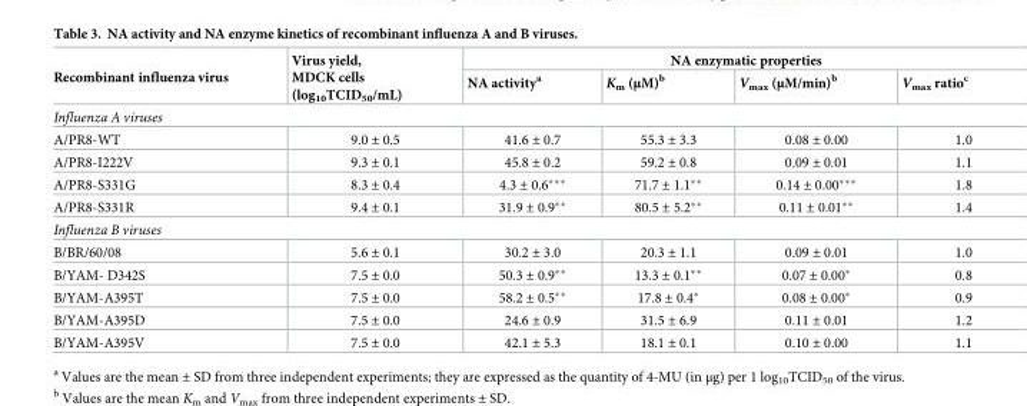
<table><thead><tr><td rowspan="2">Recombinant influenza virus</td><td rowspan="2">Virus yield, MDCK cells (log<sub>10</sub>TCID<sub>50</sub>/mL)</td><td colspan="4">NA enzymatic properties</td></tr><tr><td>NA activity<sup>a</sup></td><td>K<sub>m</sub> (μM)<sup>b</sup></td><td>V<sub>max</sub> (μM/min)<sup>b</sup></td><td>V<sub>max</sub> ratio<sup>c</sup></td></tr></thead><tbody><tr><td colspan="6">Influenza A viruses</td></tr><tr><td>A/PR8-WT</td><td>9.0 ± 0.5</td><td>41.6 ± 0.7</td><td>55.3 ± 3.3</td><td>0.08 ± 0.00</td><td>1.0</td></tr><tr><td>A/PR8-I222V</td><td>9.3 ± 0.1</td><td>45.8 ± 0.2</td><td>59.2 ± 0.8</td><td>0.09 ± 0.01</td><td>1.1</td></tr><tr><td>A/PR8-S331G</td><td>8.3 ± 0.4</td><td>4.3 ± 0.6***</td><td>71.7 ± 1.1**</td><td>0.14 ± 0.00***</td><td>1.8</td></tr><tr><td>A/PR8-S331R</td><td>9.4 ± 0.1</td><td>31.9 ± 0.9**</td><td>80.5 ± 5.2**</td><td>0.11 ± 0.01**</td><td>1.4</td></tr><tr><td colspan="6">Influenza B viruses</td></tr><tr><td>B/BR/60/08</td><td>5.6 ± 0.1</td><td>30.2 ± 3.0</td><td>20.3 ± 1.1</td><td>0.09 ± 0.01</td><td>1.0</td></tr><tr><td>B/YAM- D342S</td><td>7.5 ± 0.0</td><td>50.3 ± 0.9**</td><td>13.3 ± 0.1**</td><td>0.07 ± 0.00*</td><td>0.8</td></tr><tr><td>B/YAM-A395T</td><td>7.5 ± 0.0</td><td>58.2 ± 0.5**</td><td>17.8 ± 0.4*</td><td>0.08 ± 0.00*</td><td>0.9</td></tr><tr><td>B/YAM-A395D</td><td>7.5 ± 0.0</td><td>24.6 ± 0.9</td><td>31.5 ± 6.9</td><td>0.11 ± 0.01</td><td>1.2</td></tr><tr><td>B/YAM-A395V</td><td>7.5 ± 0.0</td><td>42.1 ± 5.3</td><td>18.1 ± 0.1</td><td>0.10 ± 0.00</td><td>1.1</td></tr></tbody></table>